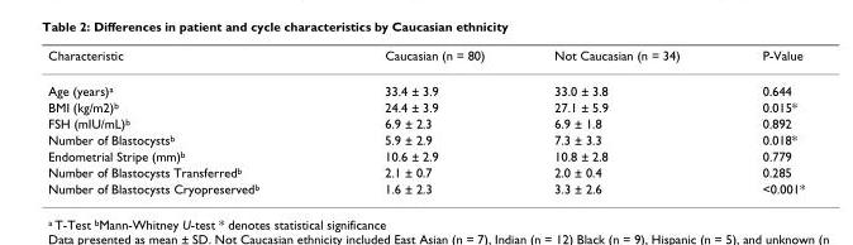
<table><thead><tr><td>Characteristic</td><td>Caucasian (n = 80)</td><td>Not Caucasian (n = 34)</td><td>P-Value</td></tr></thead><tbody><tr><td>Age (years)<sup>a</sup></td><td>33.4 ± 3.9</td><td>33.0 ± 3.8</td><td>0.644</td></tr><tr><td>BMI (kg/m2)<sup>b</sup></td><td>24.4 ± 3.9</td><td>27.1 ± 5.9</td><td>0.015*</td></tr><tr><td>FSH (mIU/mL)<sup>b</sup></td><td>6.9 ± 2.3</td><td>6.9 ± 1.8</td><td>0.892</td></tr><tr><td>Number of Blastocysts<sup>b</sup></td><td>5.9 ± 2.9</td><td>7.3 ± 3.3</td><td>0.018*</td></tr><tr><td>Endometrial Stripe (mm)<sup>b</sup></td><td>10.6 ± 2.9</td><td>10.8 ± 2.8</td><td>0.779</td></tr><tr><td>Number of Blastocysts Transferred<sup>b</sup></td><td>2.1 ± 0.7</td><td>2.0 ± 0.4</td><td>0.285</td></tr><tr><td>Number of Blastocysts Cryopreserved<sup>b</sup></td><td>1.6 ± 2.3</td><td>3.3 ± 2.6</td><td>&lt;0.001*</td></tr></tbody></table>